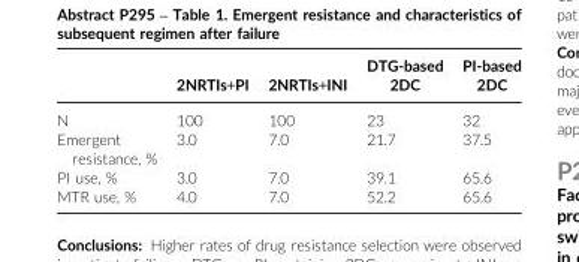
<table><thead><tr><td></td><td>2NRTIs+PI</td><td>2NRTIs+INI</td><td>DTG-based 2DC</td><td>PI-based 2DC</td></tr></thead><tbody><tr><td>N</td><td>100</td><td>100</td><td>23</td><td>32</td></tr><tr><td>Emergent resistance, %</td><td>3.0</td><td>7.0</td><td>21.7</td><td>37.5</td></tr><tr><td>PI use, %</td><td>3.0</td><td>7.0</td><td>39.1</td><td>65.6</td></tr><tr><td>MTR use, %</td><td>4.0</td><td>7.0</td><td>52.2</td><td>65.6</td></tr></tbody></table>